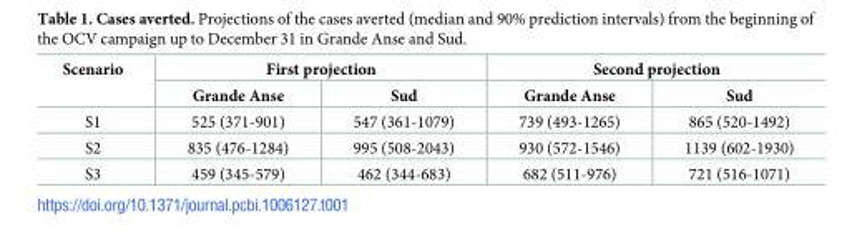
<table><thead><tr><td rowspan="2">Scenario</td><td colspan="2">First projection</td><td colspan="2">Second projection</td></tr><tr><td>Grande Anse</td><td>Sud</td><td>Grande Anse</td><td>Sud</td></tr></thead><tbody><tr><td>S1</td><td>525 (371-901)</td><td>547 (361-1079)</td><td>739 (493-1265)</td><td>865 (520-1492)</td></tr><tr><td>S2</td><td>835 (476-1284)</td><td>995 (508-2043)</td><td>930 (572-1546)</td><td>1139 (602-1930)</td></tr><tr><td>S3</td><td>459 (345-579)</td><td>462 (344-683)</td><td>682 (511-976)</td><td>721 (516-1071)</td></tr></tbody></table>